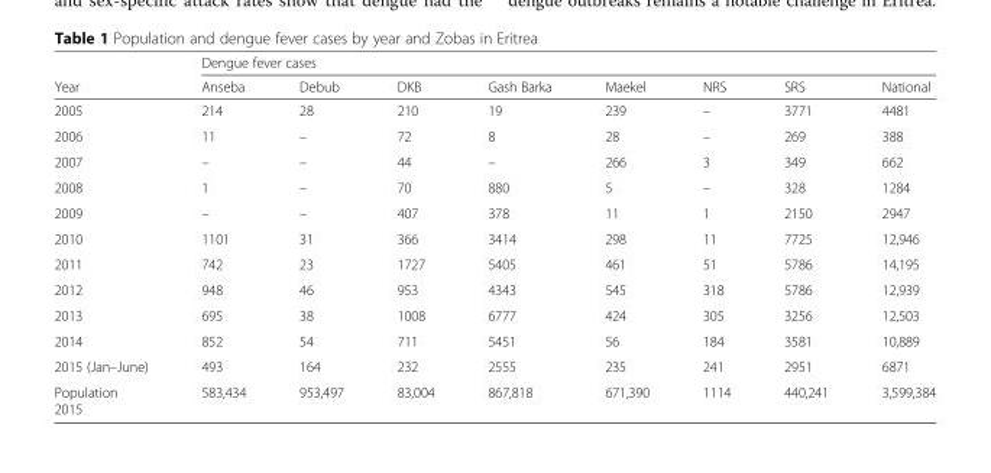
<table><thead><tr><td rowspan="2">Year</td><td colspan="8">Dengue fever cases</td></tr><tr><td>Anseba</td><td>Debub</td><td>DKB</td><td>Gash Barka</td><td>Maekel</td><td>NRS</td><td>SRS</td><td>National</td></tr></thead><tbody><tr><td>2005</td><td>214</td><td>28</td><td>210</td><td>19</td><td>239</td><td>–</td><td>3771</td><td>4481</td></tr><tr><td>2006</td><td>11</td><td>–</td><td>72</td><td>8</td><td>28</td><td>–</td><td>269</td><td>388</td></tr><tr><td>2007</td><td>–</td><td>–</td><td>44</td><td>–</td><td>266</td><td>3</td><td>349</td><td>662</td></tr><tr><td>2008</td><td>1</td><td>–</td><td>70</td><td>880</td><td>5</td><td>–</td><td>328</td><td>1284</td></tr><tr><td>2009</td><td>–</td><td>–</td><td>407</td><td>378</td><td>11</td><td>1</td><td>2150</td><td>2947</td></tr><tr><td>2010</td><td>1101</td><td>31</td><td>366</td><td>3414</td><td>298</td><td>11</td><td>7725</td><td>12,946</td></tr><tr><td>2011</td><td>742</td><td>23</td><td>1727</td><td>5405</td><td>461</td><td>51</td><td>5786</td><td>14,195</td></tr><tr><td>2012</td><td>948</td><td>46</td><td>953</td><td>4343</td><td>545</td><td>318</td><td>5786</td><td>12,939</td></tr><tr><td>2013</td><td>695</td><td>38</td><td>1008</td><td>6777</td><td>424</td><td>305</td><td>3256</td><td>12,503</td></tr><tr><td>2014</td><td>852</td><td>54</td><td>711</td><td>5451</td><td>56</td><td>184</td><td>3581</td><td>10,889</td></tr><tr><td>2015 (Jan–June)</td><td>493</td><td>164</td><td>232</td><td>2555</td><td>235</td><td>241</td><td>2951</td><td>6871</td></tr><tr><td>Population 2015</td><td>583,434</td><td>953,497</td><td>83,004</td><td>867,818</td><td>671,390</td><td>1114</td><td>440,241</td><td>3,599,384</td></tr></tbody></table>